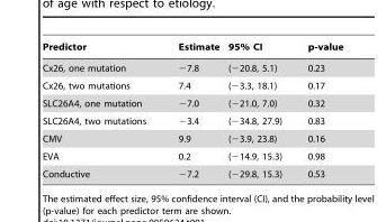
<table><thead><tr><td>Predictor</td><td>Estimate</td><td>95% CI</td><td>p-value</td></tr></thead><tbody><tr><td>Cx26, one mutation</td><td>−7.8</td><td>(−20.8, 5.1)</td><td>0.23</td></tr><tr><td>Cx26, two mutations</td><td>7.4</td><td>(−3.3, 18.1)</td><td>0.17</td></tr><tr><td>SLC26A4, one mutation</td><td>−7.0</td><td>(−21.0, 7.0)</td><td>0.32</td></tr><tr><td>SLC26A4, two mutations</td><td>−3.4</td><td>(−34.8, 27.9)</td><td>0.83</td></tr><tr><td>CMV</td><td>9.9</td><td>(−3.9, 23.8)</td><td>0.16</td></tr><tr><td>EVA</td><td>0.2</td><td>(−14.9, 15.3)</td><td>0.98</td></tr><tr><td>Conductive</td><td>−7.2</td><td>(−29.8, 15.3)</td><td>0.53</td></tr></tbody></table>